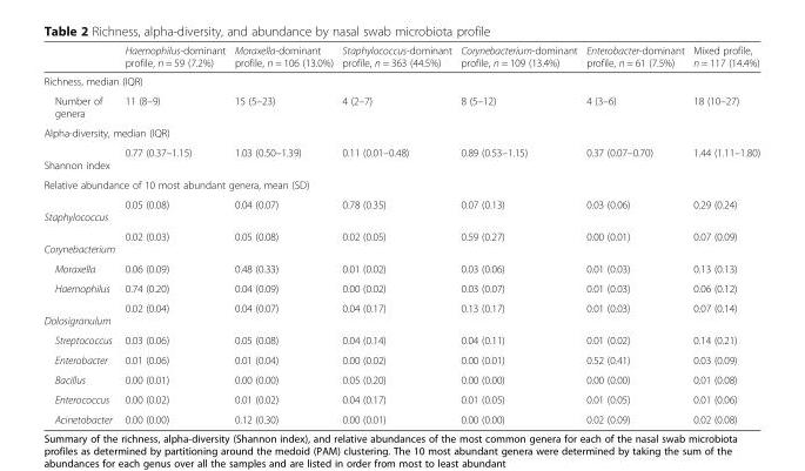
<table><thead><tr><td></td><td>Haemophilus-dominant profile, n = 59 (7.2%)</td><td>Moraxella-dominant profile, n = 106 (13.0%)</td><td>Staphylococcus-dominant profile, n = 363 (44.5%)</td><td>Corynebacterium-dominant profile, n = 109 (13.4%)</td><td>Enterobacter-dominant profile, n = 61 (7.5%)</td><td>Mixed profile, n = 117 (14.4%)</td></tr></thead><tbody><tr><td colspan="7">Richness, median (IQR)</td></tr><tr><td>Number of genera</td><td>11 (8–9)</td><td>15 (5–23)</td><td>4 (2–7)</td><td>8 (5–12)</td><td>4 (3–6)</td><td>18 (10–27)</td></tr><tr><td colspan="7">Alpha-diversity, median (IQR)</td></tr><tr><td>Shannon index</td><td>0.77 (0.37–1.15)</td><td>1.03 (0.50–1.39)</td><td>0.11 (0.01–0.48)</td><td>0.89 (0.53–1.15)</td><td>0.37 (0.07–0.70)</td><td>1.44 (1.11–1.80)</td></tr><tr><td colspan="7">Relative abundance of 10 most abundant genera, mean (SD)</td></tr><tr><td>Staphylococcus</td><td>0.05 (0.08)</td><td>0.04 (0.07)</td><td>0.78 (0.35)</td><td>0.07 (0.13)</td><td>0.03 (0.06)</td><td>0.29 (0.24)</td></tr><tr><td>Corynebacterium</td><td>0.02 (0.03)</td><td>0.05 (0.08)</td><td>0.02 (0.05)</td><td>0.59 (0.27)</td><td>0.00 (0.01)</td><td>0.07 (0.09)</td></tr><tr><td>Moraxella</td><td>0.06 (0.09)</td><td>0.48 (0.33)</td><td>0.01 (0.02)</td><td>0.03 (0.06)</td><td>0.01 (0.03)</td><td>0.13 (0.13)</td></tr><tr><td>Haemophilus</td><td>0.74 (0.20)</td><td>0.04 (0.09)</td><td>0.00 (0.02)</td><td>0.03 (0.07)</td><td>0.01 (0.03)</td><td>0.06 (0.12)</td></tr><tr><td>Dolosigranulum</td><td>0.02 (0.04)</td><td>0.04 (0.07)</td><td>0.04 (0.17)</td><td>0.13 (0.17)</td><td>0.01 (0.03)</td><td>0.07 (0.14)</td></tr><tr><td>Streptococcus</td><td>0.03 (0.06)</td><td>0.05 (0.08)</td><td>0.04 (0.14)</td><td>0.04 (0.11)</td><td>0.01 (0.02)</td><td>0.14 (0.21)</td></tr><tr><td>Enterobacter</td><td>0.01 (0.06)</td><td>0.01 (0.04)</td><td>0.00 (0.02)</td><td>0.00 (0.01)</td><td>0.52 (0.41)</td><td>0.03 (0.09)</td></tr><tr><td>Bacillus</td><td>0.00 (0.01)</td><td>0.00 (0.00)</td><td>0.05 (0.20)</td><td>0.00 (0.00)</td><td>0.00 (0.00)</td><td>0.01 (0.08)</td></tr><tr><td>Enterococcus</td><td>0.00 (0.02)</td><td>0.01 (0.02)</td><td>0.04 (0.17)</td><td>0.01 (0.05)</td><td>0.01 (0.05)</td><td>0.01 (0.06)</td></tr><tr><td>Acinetobacter</td><td>0.00 (0.00)</td><td>0.12 (0.30)</td><td>0.00 (0.01)</td><td>0.00 (0.00)</td><td>0.02 (0.09)</td><td>0.02 (0.08)</td></tr></tbody></table>